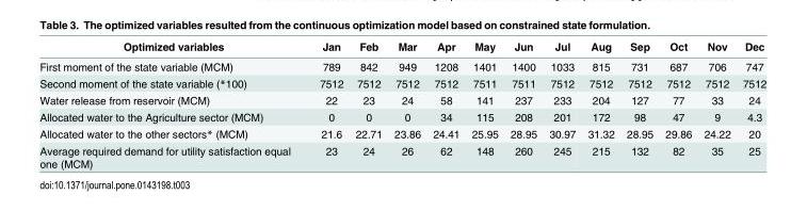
<table><thead><tr><td>Optimized variables</td><td>Jan</td><td>Feb</td><td>Mar</td><td>Apr</td><td>May</td><td>Jun</td><td>Jul</td><td>Aug</td><td>Sep</td><td>Oct</td><td>Nov</td><td>Dec</td></tr></thead><tbody><tr><td>First moment of the state variable (MCM)</td><td>789</td><td>842</td><td>949</td><td>1208</td><td>1401</td><td>1400</td><td>1033</td><td>815</td><td>731</td><td>687</td><td>706</td><td>747</td></tr><tr><td>Second moment of the state variable (*100)</td><td>7512</td><td>7512</td><td>7512</td><td>7512</td><td>7511</td><td>7511</td><td>7512</td><td>7512</td><td>7512</td><td>7512</td><td>7512</td><td>7512</td></tr><tr><td>Water release from reservoir (MCM)</td><td>22</td><td>23</td><td>24</td><td>58</td><td>141</td><td>237</td><td>233</td><td>204</td><td>127</td><td>77</td><td>33</td><td>24</td></tr><tr><td>Allocated water to the Agriculture sector (MCM)</td><td>0</td><td>0</td><td>0</td><td>34</td><td>115</td><td>208</td><td>201</td><td>172</td><td>98</td><td>47</td><td>9</td><td>4.3</td></tr><tr><td>Allocated water to the other sectors* (MCM)</td><td>21.6</td><td>22.71</td><td>23.86</td><td>24.41</td><td>25.95</td><td>28.95</td><td>30.97</td><td>31.32</td><td>28.95</td><td>29.86</td><td>24.22</td><td>20</td></tr><tr><td>Average required demand for utility satisfaction equal one (MCM)</td><td>23</td><td>24</td><td>26</td><td>62</td><td>148</td><td>260</td><td>245</td><td>215</td><td>132</td><td>82</td><td>35</td><td>25</td></tr></tbody></table>